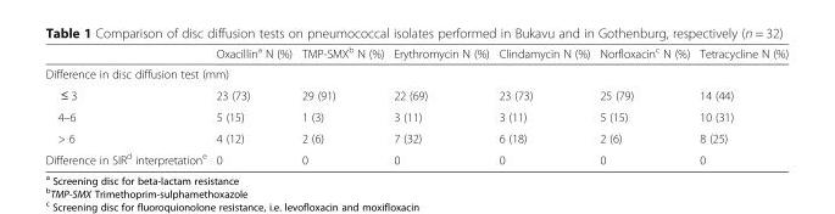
<table><thead><tr><td></td><td>Oxacillin<sup>a</sup> N (%)</td><td>TMP-SMX<sup>b</sup> N (%)</td><td>Erythromycin N (%)</td><td>Clindamycin N (%)</td><td>Norfloxacin<sup>c</sup> N (%)</td><td>Tetracycline N (%)</td></tr></thead><tbody><tr><td colspan="7">Difference in disc diffusion test (mm)</td></tr><tr><td>≤ 3</td><td>23 (73)</td><td>29 (91)</td><td>22 (69)</td><td>23 (73)</td><td>25 (79)</td><td>14 (44)</td></tr><tr><td>4–6</td><td>5 (15)</td><td>1 (3)</td><td>3 (11)</td><td>3 (11)</td><td>5 (15)</td><td>10 (31)</td></tr><tr><td>&gt; 6</td><td>4 (12)</td><td>2 (6)</td><td>7 (32)</td><td>6 (18)</td><td>2 (6)</td><td>8 (25)</td></tr><tr><td>Difference in SIR<sup>d</sup> interpretation<sup>e</sup></td><td>0</td><td>0</td><td>0</td><td>0</td><td>0</td><td>0</td></tr></tbody></table>